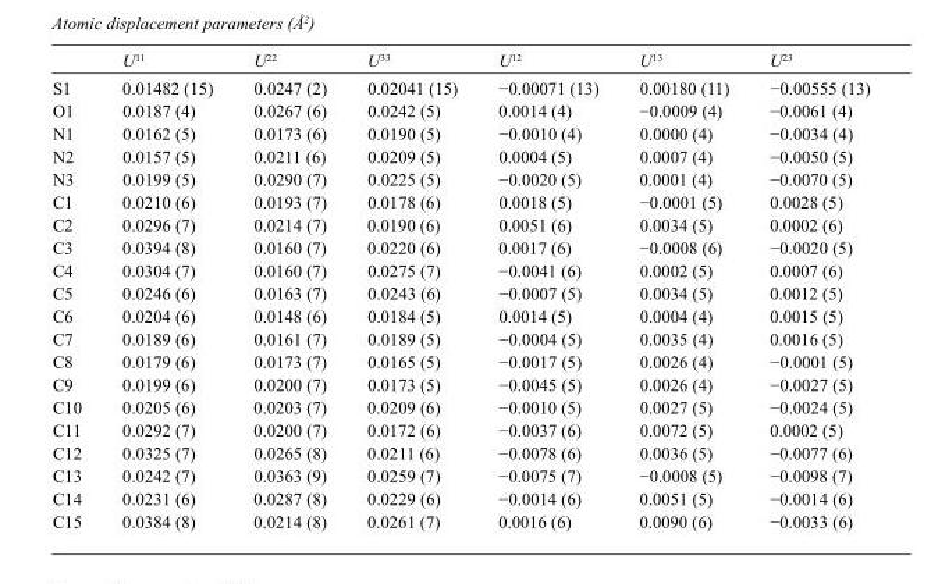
<table><thead><tr><td></td><td>U<sup>11</sup></td><td>U<sup>22</sup></td><td>U<sup>33</sup></td><td>U<sup>12</sup></td><td>U<sup>13</sup></td><td>U<sup>23</sup></td></tr></thead><tbody><tr><td>S1</td><td>0.01482 (15)</td><td>0.0247 (2)</td><td>0.02041 (15)</td><td>−0.00071 (13)</td><td>0.00180 (11)</td><td>−0.00555 (13)</td></tr><tr><td>O1</td><td>0.0187 (4)</td><td>0.0267 (6)</td><td>0.0242 (5)</td><td>0.0014 (4)</td><td>−0.0009 (4)</td><td>−0.0061 (4)</td></tr><tr><td>N1</td><td>0.0162 (5)</td><td>0.0173 (6)</td><td>0.0190 (5)</td><td>−0.0010 (4)</td><td>0.0000 (4)</td><td>−0.0034 (4)</td></tr><tr><td>N2</td><td>0.0157 (5)</td><td>0.0211 (6)</td><td>0.0209 (5)</td><td>0.0004 (5)</td><td>0.0007 (4)</td><td>−0.0050 (5)</td></tr><tr><td>N3</td><td>0.0199 (5)</td><td>0.0290 (7)</td><td>0.0225 (5)</td><td>−0.0020 (5)</td><td>0.0001 (4)</td><td>−0.0070 (5)</td></tr><tr><td>C1</td><td>0.0210 (6)</td><td>0.0193 (7)</td><td>0.0178 (6)</td><td>0.0018 (5)</td><td>−0.0001 (5)</td><td>0.0028 (5)</td></tr><tr><td>C2</td><td>0.0296 (7)</td><td>0.0214 (7)</td><td>0.0190 (6)</td><td>0.0051 (6)</td><td>0.0034 (5)</td><td>0.0002 (6)</td></tr><tr><td>C3</td><td>0.0394 (8)</td><td>0.0160 (7)</td><td>0.0220 (6)</td><td>0.0017 (6)</td><td>−0.0008 (6)</td><td>−0.0020 (5)</td></tr><tr><td>C4</td><td>0.0304 (7)</td><td>0.0160 (7)</td><td>0.0275 (7)</td><td>−0.0041 (6)</td><td>0.0002 (5)</td><td>0.0007 (6)</td></tr><tr><td>C5</td><td>0.0246 (6)</td><td>0.0163 (7)</td><td>0.0243 (6)</td><td>−0.0007 (5)</td><td>0.0034 (5)</td><td>0.0012 (5)</td></tr><tr><td>C6</td><td>0.0204 (6)</td><td>0.0148 (6)</td><td>0.0184 (5)</td><td>0.0014 (5)</td><td>0.0004 (4)</td><td>0.0015 (5)</td></tr><tr><td>C7</td><td>0.0189 (6)</td><td>0.0161 (7)</td><td>0.0189 (5)</td><td>−0.0004 (5)</td><td>0.0035 (4)</td><td>0.0016 (5)</td></tr><tr><td>C8</td><td>0.0179 (6)</td><td>0.0173 (7)</td><td>0.0165 (5)</td><td>−0.0017 (5)</td><td>0.0026 (4)</td><td>−0.0001 (5)</td></tr><tr><td>C9</td><td>0.0199 (6)</td><td>0.0200 (7)</td><td>0.0173 (5)</td><td>−0.0045 (5)</td><td>0.0026 (4)</td><td>−0.0027 (5)</td></tr><tr><td>C10</td><td>0.0205 (6)</td><td>0.0203 (7)</td><td>0.0209 (6)</td><td>−0.0010 (5)</td><td>0.0027 (5)</td><td>−0.0024 (5)</td></tr><tr><td>C11</td><td>0.0292 (7)</td><td>0.0200 (7)</td><td>0.0172 (6)</td><td>−0.0037 (6)</td><td>0.0072 (5)</td><td>0.0002 (5)</td></tr><tr><td>C12</td><td>0.0325 (7)</td><td>0.0265 (8)</td><td>0.0211 (6)</td><td>−0.0078 (6)</td><td>0.0036 (5)</td><td>−0.0077 (6)</td></tr><tr><td>C13</td><td>0.0242 (7)</td><td>0.0363 (9)</td><td>0.0259 (7)</td><td>−0.0075 (7)</td><td>−0.0008 (5)</td><td>−0.0098 (7)</td></tr><tr><td>C14</td><td>0.0231 (6)</td><td>0.0287 (8)</td><td>0.0229 (6)</td><td>−0.0014 (6)</td><td>0.0051 (5)</td><td>−0.0014 (6)</td></tr><tr><td>C15</td><td>0.0384 (8)</td><td>0.0214 (8)</td><td>0.0261 (7)</td><td>0.0016 (6)</td><td>0.0090 (6)</td><td>−0.0033 (6)</td></tr></tbody></table>